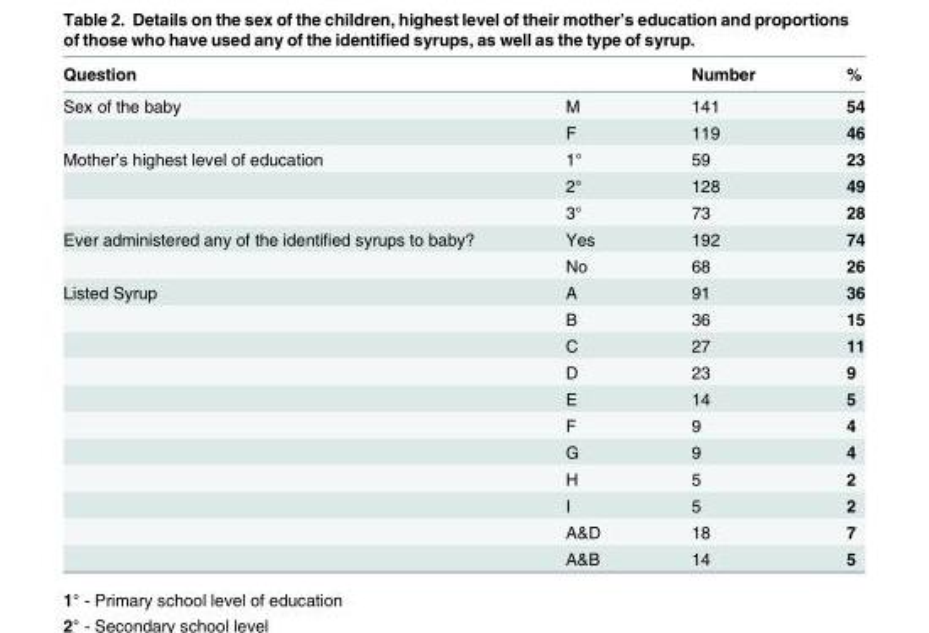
<table><thead><tr><td>Question</td><td></td><td>Number</td><td>%</td></tr></thead><tbody><tr><td rowspan="2">Sex of the baby</td><td>M</td><td>141</td><td>54</td></tr><tr><td>F</td><td>119</td><td>46</td></tr><tr><td rowspan="3">Mother’s highest level of education</td><td>1°</td><td>59</td><td>23</td></tr><tr><td>2°</td><td>128</td><td>49</td></tr><tr><td>3°</td><td>73</td><td>28</td></tr><tr><td rowspan="2">Ever administered any of the identified syrups to baby?</td><td>Yes</td><td>192</td><td>74</td></tr><tr><td>No</td><td>68</td><td>26</td></tr><tr><td rowspan="11">Listed Syrup</td><td>A</td><td>91</td><td>36</td></tr><tr><td>B</td><td>36</td><td>15</td></tr><tr><td>C</td><td>27</td><td>11</td></tr><tr><td>D</td><td>23</td><td>9</td></tr><tr><td>E</td><td>14</td><td>5</td></tr><tr><td>F</td><td>9</td><td>4</td></tr><tr><td>G</td><td>9</td><td>4</td></tr><tr><td>H</td><td>5</td><td>2</td></tr><tr><td>I</td><td>5</td><td>2</td></tr><tr><td>A&amp;D</td><td>18</td><td>7</td></tr><tr><td>A&amp;B</td><td>14</td><td>5</td></tr></tbody></table>